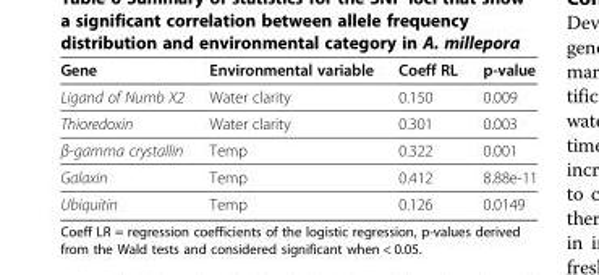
<table><thead><tr><td>Gene</td><td>Environmental variable</td><td>Coeff RL</td><td>p-value</td></tr></thead><tbody><tr><td>Ligand of Numb X2</td><td>Water clarity</td><td>0.150</td><td>0.009</td></tr><tr><td>Thioredoxin</td><td>Water clarity</td><td>0.301</td><td>0.003</td></tr><tr><td>β-gamma crystallin</td><td>Temp</td><td>0.322</td><td>0.001</td></tr><tr><td>Galaxin</td><td>Temp</td><td>0.412</td><td>8.88e-11</td></tr><tr><td>Ubiquitin</td><td>Temp</td><td>0.126</td><td>0.0149</td></tr></tbody></table>